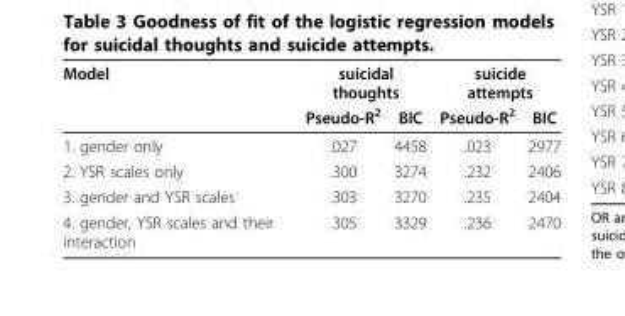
<table><thead><tr><td rowspan="2">Model</td><td colspan="2">suicidal thoughts</td><td colspan="2">suicide attempts</td></tr><tr><td>Pseudo-R<sup>2</sup></td><td>BIC</td><td>Pseudo-R<sup>2</sup></td><td>BIC</td></tr></thead><tbody><tr><td>1. gender only</td><td>.027</td><td>4458</td><td>.023</td><td>2977</td></tr><tr><td>2. YSR scales only</td><td>.300</td><td>3274</td><td>.232</td><td>2406</td></tr><tr><td>3. gender and YSR scales</td><td>.303</td><td>3270</td><td>.235</td><td>2404</td></tr><tr><td>4. gender, YSR scales and their interaction</td><td>.305</td><td>3329</td><td>.236</td><td>2470</td></tr></tbody></table>